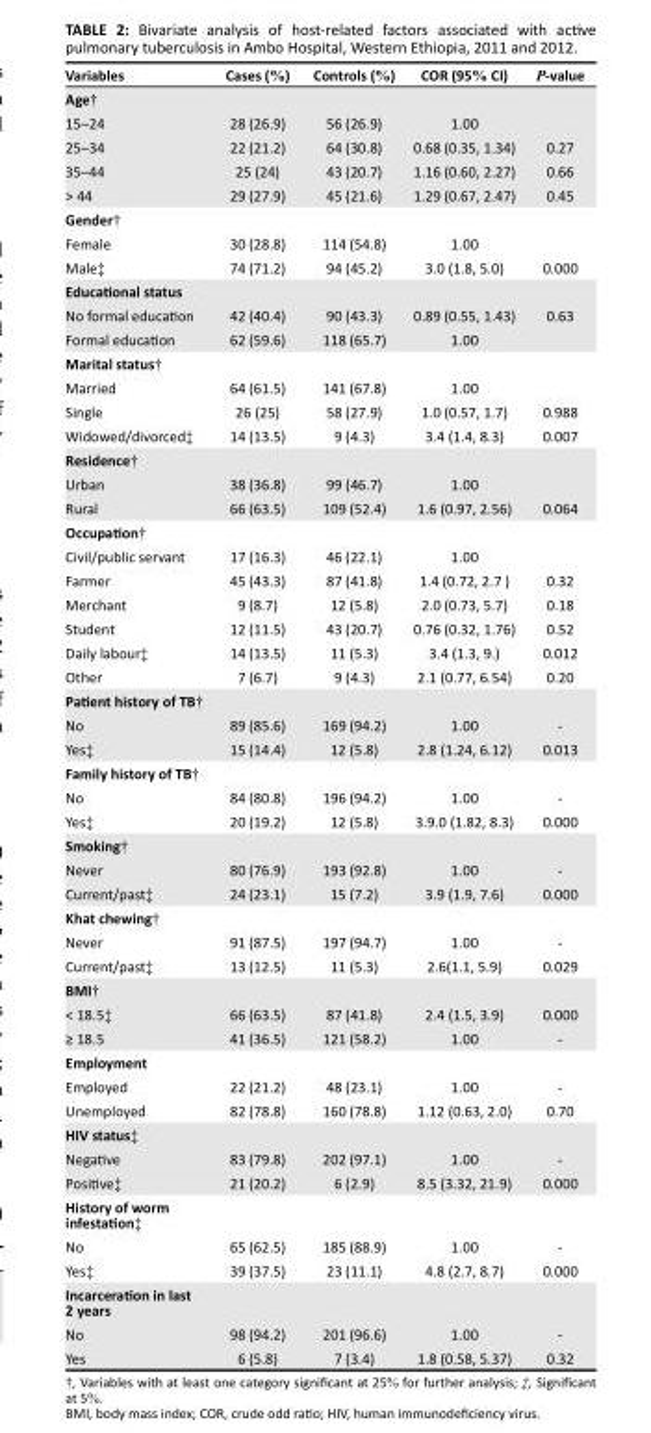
<table><thead><tr><td>Variables</td><td>Cases (%)</td><td>Controls (%)</td><td>COR (95% CI)</td><td>P-value</td></tr></thead><tbody><tr><td colspan="5">Age†</td></tr><tr><td>15–24</td><td>28 (26.9)</td><td>56 (26.9)</td><td>1.00</td><td></td></tr><tr><td>25–34</td><td>22 (21.2)</td><td>64 (30.8)</td><td>0.68 (0.35, 1.34)</td><td>0.27</td></tr><tr><td>35–44</td><td>25 (24)</td><td>43 (20.7)</td><td>1.16 (0.60, 2.27)</td><td>0.66</td></tr><tr><td>&gt; 44</td><td>29 (27.9)</td><td>45 (21.6)</td><td>1.29 (0.67, 2.47)</td><td>0.45</td></tr><tr><td colspan="5">Gender†</td></tr><tr><td>Female</td><td>30 (28.8)</td><td>114 (54.8)</td><td>1.00</td><td></td></tr><tr><td>Male‡</td><td>74 (71.2)</td><td>94 (45.2)</td><td>3.0 (1.8, 5.0)</td><td>0.000</td></tr><tr><td colspan="5">Educational status</td></tr><tr><td>No formal education</td><td>42 (40.4)</td><td>90 (43.3)</td><td>0.89 (0.55, 1.43)</td><td>0.63</td></tr><tr><td>Formal education</td><td>62 (59.6)</td><td>118 (65.7)</td><td>1.00</td><td></td></tr><tr><td colspan="5">Marital status†</td></tr><tr><td>Married</td><td>64 (61.5)</td><td>141 (67.8)</td><td>1.00</td><td></td></tr><tr><td>Single</td><td>26 (25)</td><td>58 (27.9)</td><td>1.0 (0.57, 1.7)</td><td>0.988</td></tr><tr><td>Widowed/divorced‡</td><td>14 (13.5)</td><td>9 (4.3)</td><td>3.4 (1.4, 8.3)</td><td>0.007</td></tr><tr><td colspan="5">Residence†</td></tr><tr><td>Urban</td><td>38 (36.8)</td><td>99 (46.7)</td><td>1.00</td><td></td></tr><tr><td>Rural</td><td>66 (63.5)</td><td>109 (52.4)</td><td>1.6 (0.97, 2.56)</td><td>0.064</td></tr><tr><td colspan="5">Occupation†</td></tr><tr><td>Civil/public servant</td><td>17 (16.3)</td><td>46 (22.1)</td><td>1.00</td><td></td></tr><tr><td>Farmer</td><td>45 (43.3)</td><td>87 (41.8)</td><td>1.4 (0.72, 2.7 )</td><td>0.32</td></tr><tr><td>Merchant</td><td>9 (8.7)</td><td>12 (5.8)</td><td>2.0 (0.73, 5.7)</td><td>0.18</td></tr><tr><td>Student</td><td>12 (11.5)</td><td>43 (20.7)</td><td>0.76 (0.32, 1.76)</td><td>0.52</td></tr><tr><td>Daily labour‡</td><td>14 (13.5)</td><td>11 (5.3)</td><td>3.4 (1.3, 9.)</td><td>0.012</td></tr><tr><td>Other</td><td>7 (6.7)</td><td>9 (4.3)</td><td>2.1 (0.77, 6.54)</td><td>0.20</td></tr><tr><td colspan="5">Patient history of TB†</td></tr><tr><td>No</td><td>89 (85.6)</td><td>169 (94.2)</td><td>1.00</td><td>-</td></tr><tr><td>Yes‡</td><td>15 (14.4)</td><td>12 (5.8)</td><td>2.8 (1.24, 6.12)</td><td>0.013</td></tr><tr><td colspan="5">Family history of TB†</td></tr><tr><td>No</td><td>84 (80.8)</td><td>196 (94.2)</td><td>1.00</td><td>-</td></tr><tr><td>Yes‡</td><td>20 (19.2)</td><td>12 (5.8)</td><td>3.9.0 (1.82, 8.3)</td><td>0.000</td></tr><tr><td colspan="5">Smoking†</td></tr><tr><td>Never</td><td>80 (76.9)</td><td>193 (92.8)</td><td>1.00</td><td>-</td></tr><tr><td>Current/past‡</td><td>24 (23.1)</td><td>15 (7.2)</td><td>3.9 (1.9, 7.6)</td><td>0.000</td></tr><tr><td colspan="5">Khat chewing†</td></tr><tr><td>Never</td><td>91 (87.5)</td><td>197 (94.7)</td><td>1.00</td><td>-</td></tr><tr><td>Current/past‡</td><td>13 (12.5)</td><td>11 (5.3)</td><td>2.6(1.1, 5.9)</td><td>0.029</td></tr><tr><td colspan="5">BMI†</td></tr><tr><td>&lt; 18.5‡</td><td>66 (63.5)</td><td>87 (41.8)</td><td>2.4 (1.5, 3.9)</td><td>0.000</td></tr><tr><td>≥ 18.5</td><td>41 (36.5)</td><td>121 (58.2)</td><td>1.00</td><td>-</td></tr><tr><td colspan="5">Employment</td></tr><tr><td>Employed</td><td>22 (21.2)</td><td>48 (23.1)</td><td>1.00</td><td>-</td></tr><tr><td>Unemployed</td><td>82 (78.8)</td><td>160 (78.8)</td><td>1.12 (0.63, 2.0)</td><td>0.70</td></tr><tr><td colspan="5">HIV status‡</td></tr><tr><td>Negative</td><td>83 (79.8)</td><td>202 (97.1)</td><td>1.00</td><td>-</td></tr><tr><td>Positive‡</td><td>21 (20.2)</td><td>6 (2.9)</td><td>8.5 (3.32, 21.9)</td><td>0.000</td></tr><tr><td colspan="5">History of worm infestation‡</td></tr><tr><td>No</td><td>65 (62.5)</td><td>185 (88.9)</td><td>1.00</td><td>-</td></tr><tr><td>Yes‡</td><td>39 (37.5)</td><td>23 (11.1)</td><td>4.8 (2.7, 8.7)</td><td>0.000</td></tr><tr><td colspan="5">Incarceration in last 2 years</td></tr><tr><td>No</td><td>98 (94.2)</td><td>201 (96.6)</td><td>1.00</td><td>-</td></tr><tr><td>Yes</td><td>6 (5.8)</td><td>7 (3.4)</td><td>1.8 (0.58, 5.37)</td><td>0.32</td></tr></tbody></table>